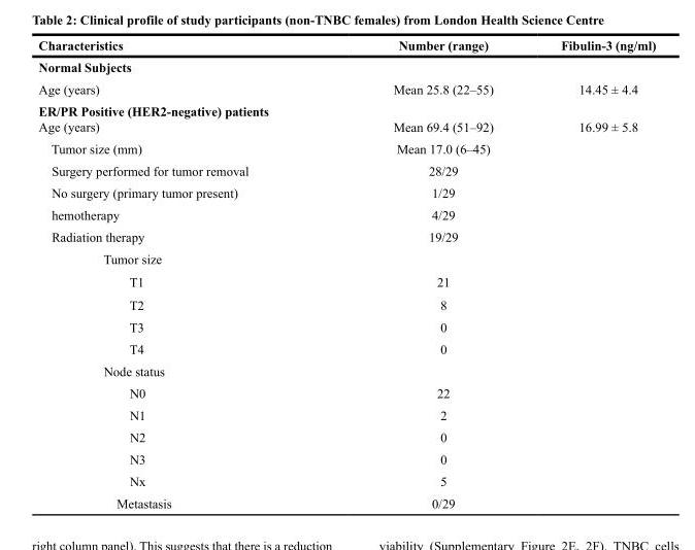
<table><thead><tr><td>characteristics</td><td>number (range)</td><td>Fibulin-3 (ng/ml)</td></tr></thead><tbody><tr><td colspan="3">normal subjects</td></tr><tr><td>Age (years)</td><td>Mean 25.8 (22–55)</td><td>14.45 ± 4.4</td></tr><tr><td>er/Pr Positive (Her2-negative) patients Age (years)</td><td>Mean 69.4 (51–92)</td><td>16.99 ± 5.8</td></tr><tr><td>Tumor size (mm)</td><td>Mean 17.0 (6–45)</td><td></td></tr><tr><td>Surgery performed for tumor removal</td><td>28/29</td><td></td></tr><tr><td>No surgery (primary tumor present)</td><td>1/29</td><td></td></tr><tr><td>hemotherapy</td><td>4/29</td><td></td></tr><tr><td>Radiation therapy</td><td>19/29</td><td></td></tr><tr><td colspan="3">Tumor size</td></tr><tr><td>T1</td><td>21</td><td></td></tr><tr><td>T2</td><td>8</td><td></td></tr><tr><td>T3</td><td>0</td><td></td></tr><tr><td>T4</td><td>0</td><td></td></tr><tr><td colspan="3">Node status</td></tr><tr><td>N0</td><td>22</td><td></td></tr><tr><td>N1</td><td>2</td><td></td></tr><tr><td>N2</td><td>0</td><td></td></tr><tr><td>N3</td><td>0</td><td></td></tr><tr><td>Nx</td><td>5</td><td></td></tr><tr><td>Metastasis</td><td>0/29</td><td></td></tr></tbody></table>